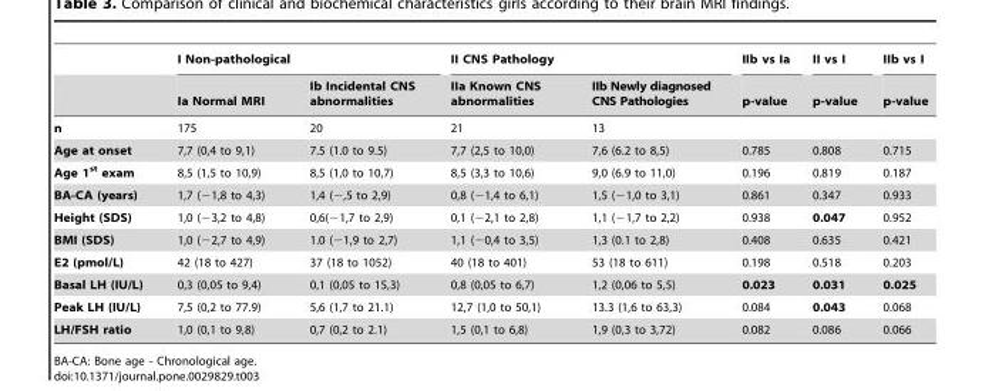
<table><thead><tr><td rowspan="2"></td><td colspan="2">I Non-pathological</td><td colspan="2">II CNS Pathology</td><td rowspan="2">IIb vs Ia p-value</td><td rowspan="2">II vs I p-value</td><td rowspan="2">IIb vs I p-value</td></tr><tr><td>Ia Normal MRI</td><td>Ib Incidental CNS abnormalities</td><td>IIa Known CNS abnormalities</td><td>IIb Newly diagnosed CNS Pathologies</td></tr></thead><tbody><tr><td>n</td><td>175</td><td>20</td><td>21</td><td>13</td><td></td><td></td><td></td></tr><tr><td>Age at onset</td><td>7,7 (0,4 to 9,1)</td><td>7.5 (1.0 to 9.5)</td><td>7,7 (2,5 to 10,0)</td><td>7,6 (6.2 to 8,5)</td><td>0.785</td><td>0.808</td><td>0.715</td></tr><tr><td>Age 1<sup>st</sup> exam</td><td>8,5 (1,5 to 10,9)</td><td>8,5 (1,0 to 10,7)</td><td>8,5 (3,3 to 10,6)</td><td>9,0 (6.9 to 11,0)</td><td>0.196</td><td>0.819</td><td>0.187</td></tr><tr><td>BA-CA (years)</td><td>1,7 (−1,8 to 4,3)</td><td>1,4 (−,5 to 2,9)</td><td>0,8 (−1,4 to 6,1)</td><td>1,5 (−1,0 to 3,1)</td><td>0.861</td><td>0.347</td><td>0.933</td></tr><tr><td>Height (SDS)</td><td>1,0 (−3,2 to 4,8)</td><td>0,6(−1,7 to 2,9)</td><td>0,1 (−2,1 to 2,8)</td><td>1,1 (−1,7 to 2,2)</td><td>0.938</td><td>0.047</td><td>0.952</td></tr><tr><td>BMI (SDS)</td><td>1,0 (−2,7 to 4,9)</td><td>1.0 (−1,9 to 2,7)</td><td>1,1 (−0,4 to 3,5)</td><td>1,3 (0.1 to 2,8)</td><td>0.408</td><td>0.635</td><td>0.421</td></tr><tr><td>E2 (pmol/L)</td><td>42 (18 to 427)</td><td>37 (18 to 1052)</td><td>40 (18 to 401)</td><td>53 (18 to 611)</td><td>0.198</td><td>0.518</td><td>0.203</td></tr><tr><td>Basal LH (IU/L)</td><td>0,3 (0,05 to 9,4)</td><td>0,1 (0,05 to 15,3)</td><td>0,8 (0,05 to 6,7)</td><td>1,2 (0,06 to 5,5)</td><td>0.023</td><td>0.031</td><td>0.025</td></tr><tr><td>Peak LH (IU/L)</td><td>7,5 (0,2 to 77.9)</td><td>5,6 (1,7 to 21.1)</td><td>12,7 (1,0 to 50,1)</td><td>13.3 (1,6 to 63,3)</td><td>0.084</td><td>0.043</td><td>0.068</td></tr><tr><td>LH/FSH ratio</td><td>1,0 (0,1 to 9,8)</td><td>0,7 (0,2 to 2.1)</td><td>1,5 (0,1 to 6,8)</td><td>1,9 (0,3 to 3,72)</td><td>0.082</td><td>0.086</td><td>0.066</td></tr></tbody></table>